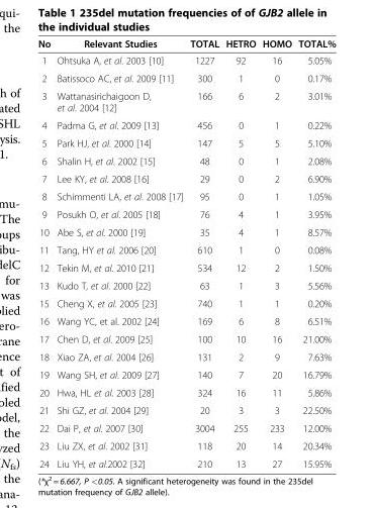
<table><thead><tr><td>No</td><td>Relevant Studies</td><td>TOTAL</td><td>HETRO</td><td>HOMO</td><td>TOTAL%</td></tr></thead><tbody><tr><td>1</td><td>Ohtsuka A, et al. 2003 [10]</td><td>1227</td><td>92</td><td>16</td><td>5.05%</td></tr><tr><td>2</td><td>Batissoco AC, et al. 2009 [11]</td><td>300</td><td>1</td><td>0</td><td>0.17%</td></tr><tr><td>3</td><td>Wattanasirichaigoon D, et al. 2004 [12]</td><td>166</td><td>6</td><td>2</td><td>3.01%</td></tr><tr><td>4</td><td>Padma G, et al. 2009 [13]</td><td>456</td><td>0</td><td>1</td><td>0.22%</td></tr><tr><td>5</td><td>Park HJ, et al. 2000 [14]</td><td>147</td><td>5</td><td>5</td><td>5.10%</td></tr><tr><td>6</td><td>Shalin H, et al. 2002 [15]</td><td>48</td><td>0</td><td>1</td><td>2.08%</td></tr><tr><td>7</td><td>Lee KY, et al. 2008 [16]</td><td>29</td><td>0</td><td>2</td><td>6.90%</td></tr><tr><td>8</td><td>Schimmenti LA, et al. 2008 [17]</td><td>95</td><td>0</td><td>1</td><td>1.05%</td></tr><tr><td>9</td><td>Posukh O, et al. 2005 [18]</td><td>76</td><td>4</td><td>1</td><td>3.95%</td></tr><tr><td>10</td><td>Abe S, et al. 2000 [19]</td><td>35</td><td>4</td><td>1</td><td>8.57%</td></tr><tr><td>11</td><td>Tang, HY et al. 2006 [20]</td><td>610</td><td>1</td><td>0</td><td>0.08%</td></tr><tr><td>12</td><td>Tekin M, et al. 2010 [21]</td><td>534</td><td>12</td><td>2</td><td>1.50%</td></tr><tr><td>13</td><td>Kudo T, et al. 2000 [22]</td><td>63</td><td>1</td><td>3</td><td>5.56%</td></tr><tr><td>15</td><td>Cheng X, et al. 2005 [23]</td><td>740</td><td>1</td><td>1</td><td>0.20%</td></tr><tr><td>16</td><td>Wang YC, et al. 2002 [24]</td><td>169</td><td>6</td><td>8</td><td>6.51%</td></tr><tr><td>17</td><td>Chen D, et al. 2009 [25]</td><td>100</td><td>10</td><td>16</td><td>21.00%</td></tr><tr><td>18</td><td>Xiao ZA, et al. 2004 [26]</td><td>131</td><td>2</td><td>9</td><td>7.63%</td></tr><tr><td>19</td><td>Wang SH, et al. 2009 [27]</td><td>140</td><td>7</td><td>20</td><td>16.79%</td></tr><tr><td>20</td><td>Hwa, HL et al. 2003 [28]</td><td>324</td><td>16</td><td>11</td><td>5.86%</td></tr><tr><td>21</td><td>Shi GZ, et al. 2004 [29]</td><td>20</td><td>3</td><td>3</td><td>22.50%</td></tr><tr><td>22</td><td>Dai P, et al. 2007 [30]</td><td>3004</td><td>255</td><td>233</td><td>12.00%</td></tr><tr><td>23</td><td>Liu ZX, et al. 2002 [31]</td><td>118</td><td>20</td><td>14</td><td>20.34%</td></tr><tr><td>24</td><td>Liu YH, et al.2002 [32]</td><td>210</td><td>13</td><td>27</td><td>15.95%</td></tr></tbody></table>